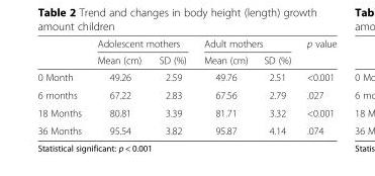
<table><thead><tr><td rowspan="2"></td><td colspan="2">Adolescent mothers</td><td colspan="2">Adult mothers</td><td rowspan="2">p value</td></tr><tr><td>Mean (cm)</td><td>SD (%)</td><td>Mean (cm)</td><td>SD (%)</td></tr></thead><tbody><tr><td>0 Month</td><td>49.26</td><td>2.59</td><td>49.76</td><td>2.51</td><td>&lt;0.001</td></tr><tr><td>6 months</td><td>67.22</td><td>2.83</td><td>67.56</td><td>2.79</td><td>.027</td></tr><tr><td>18 Months</td><td>80.81</td><td>3.39</td><td>81.71</td><td>3.32</td><td>&lt;0.001</td></tr><tr><td>36 Months</td><td>95.54</td><td>3.82</td><td>95.87</td><td>4.14</td><td>.074</td></tr></tbody></table>